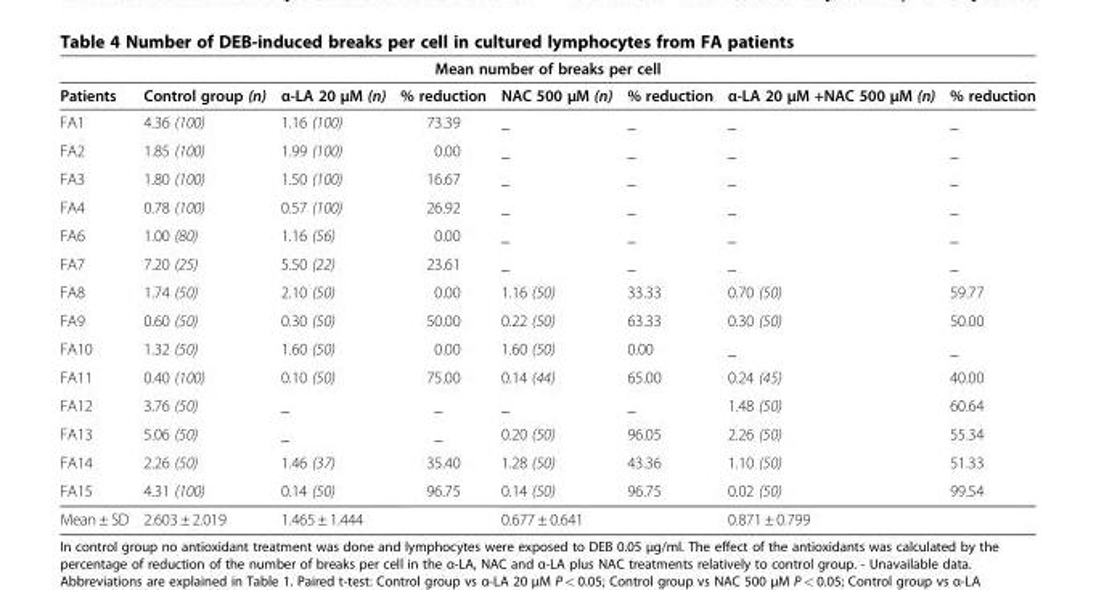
<table><thead><tr><td colspan="8">Mean number of breaks per cell</td></tr><tr><td>Patients</td><td>Control group (n)</td><td>α-LA 20 μM (n)</td><td>% reduction</td><td>NAC 500 μM (n)</td><td>% reduction</td><td>α-LA 20 μM +NAC 500 μM (n)</td><td>% reduction</td></tr></thead><tbody><tr><td>FA1</td><td>4.36 (100)</td><td>1.16 (100)</td><td>73.39</td><td>_</td><td>_</td><td>_</td><td>_</td></tr><tr><td>FA2</td><td>1.85 (100)</td><td>1.99 (100)</td><td>0.00</td><td>_</td><td>_</td><td>_</td><td>_</td></tr><tr><td>FA3</td><td>1.80 (100)</td><td>1.50 (100)</td><td>16.67</td><td>_</td><td>_</td><td>_</td><td>_</td></tr><tr><td>FA4</td><td>0.78 (100)</td><td>0.57 (100)</td><td>26.92</td><td>_</td><td>_</td><td>_</td><td>_</td></tr><tr><td>FA6</td><td>1.00 (80)</td><td>1.16 (56)</td><td>0.00</td><td>_</td><td>_</td><td>_</td><td>_</td></tr><tr><td>FA7</td><td>7.20 (25)</td><td>5.50 (22)</td><td>23.61</td><td>_</td><td>_</td><td>_</td><td>_</td></tr><tr><td>FA8</td><td>1.74 (50)</td><td>2.10 (50)</td><td>0.00</td><td>1.16 (50)</td><td>33.33</td><td>0.70 (50)</td><td>59.77</td></tr><tr><td>FA9</td><td>0.60 (50)</td><td>0.30 (50)</td><td>50.00</td><td>0.22 (50)</td><td>63.33</td><td>0.30 (50)</td><td>50.00</td></tr><tr><td>FA10</td><td>1.32 (50)</td><td>1.60 (50)</td><td>0.00</td><td>1.60 (50)</td><td>0.00</td><td>_</td><td>_</td></tr><tr><td>FA11</td><td>0.40 (100)</td><td>0.10 (50)</td><td>75.00</td><td>0.14 (44)</td><td>65.00</td><td>0.24 (45)</td><td>40.00</td></tr><tr><td>FA12</td><td>3.76 (50)</td><td>_</td><td>_</td><td>_</td><td>_</td><td>1.48 (50)</td><td>60.64</td></tr><tr><td>FA13</td><td>5.06 (50)</td><td>_</td><td>_</td><td>0.20 (50)</td><td>96.05</td><td>2.26 (50)</td><td>55.34</td></tr><tr><td>FA14</td><td>2.26 (50)</td><td>1.46 (37)</td><td>35.40</td><td>1.28 (50)</td><td>43.36</td><td>1.10 (50)</td><td>51.33</td></tr><tr><td>FA15</td><td>4.31 (100)</td><td>0.14 (50)</td><td>96.75</td><td>0.14 (50)</td><td>96.75</td><td>0.02 (50)</td><td>99.54</td></tr><tr><td>Mean ± SD</td><td>2.603 ± 2.019</td><td>1.465 ± 1.444</td><td></td><td>0.677 ± 0.641</td><td></td><td>0.871 ± 0.799</td><td></td></tr></tbody></table>